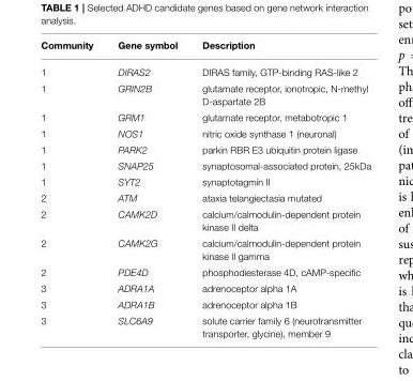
<table><thead><tr><td>Community</td><td>Gene symbol</td><td>Description</td></tr></thead><tbody><tr><td>1</td><td>DIRAS2</td><td>DIRAS family, GTP-binding RAS-like 2</td></tr><tr><td>1</td><td>GRIN2B</td><td>glutamate receptor, ionotropic, N-methyl D-aspartate 2B</td></tr><tr><td>1</td><td>GRM1</td><td>glutamate receptor, metabotropic 1</td></tr><tr><td>1</td><td>NOS1</td><td>nitric oxide synthase 1 (neuronal)</td></tr><tr><td>1</td><td>PARK2</td><td>parkin RBR E3 ubiquitin protein ligase</td></tr><tr><td>1</td><td>SNAP25</td><td>synaptosomal-associated protein, 25kDa</td></tr><tr><td>1</td><td>SYT2</td><td>synaptotagmin II</td></tr><tr><td>2</td><td>ATM</td><td>ataxia telangiectasia mutated</td></tr><tr><td>2</td><td>CAMK2D</td><td>calcium/calmodulin-dependent protein kinase II delta</td></tr><tr><td>2</td><td>CAMK2G</td><td>calcium/calmodulin-dependent protein kinase II gamma</td></tr><tr><td>2</td><td>PDE4D</td><td>phosphodiesterase 4D, cAMP-specific</td></tr><tr><td>3</td><td>ADRA1A</td><td>adrenoceptor alpha 1A</td></tr><tr><td>3</td><td>ADRA1B</td><td>adrenoceptor alpha 1B</td></tr><tr><td>3</td><td>SLC6A9</td><td>solute carrier family 6 (neurotransmitter transporter, glycine), member 9</td></tr></tbody></table>